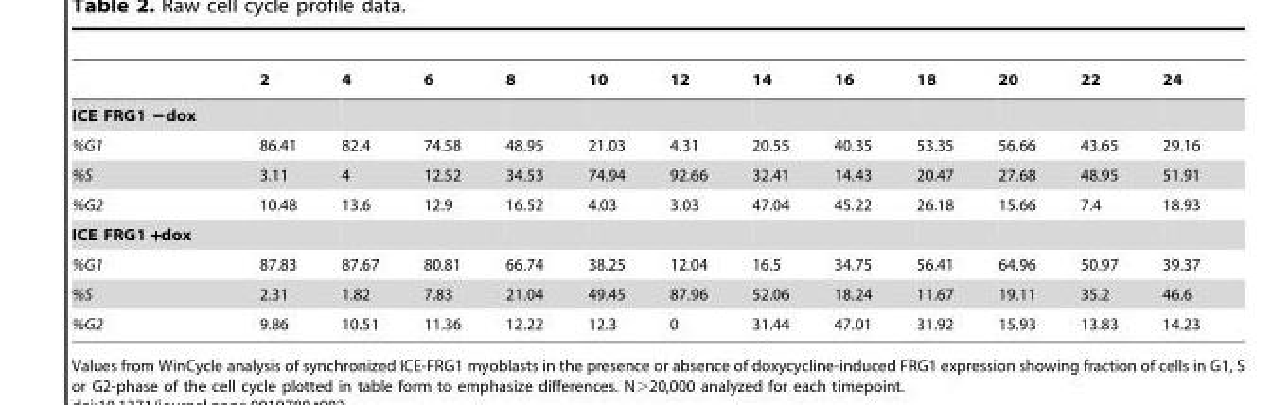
<table><thead><tr><td></td><td>2</td><td>4</td><td>6</td><td>8</td><td>10</td><td>12</td><td>14</td><td>16</td><td>18</td><td>20</td><td>22</td><td>24</td></tr></thead><tbody><tr><td colspan="13">ICE FRG1 −dox</td></tr><tr><td>%G1</td><td>86.41</td><td>82.4</td><td>74.58</td><td>48.95</td><td>21.03</td><td>4.31</td><td>20.55</td><td>40.35</td><td>53.35</td><td>56.66</td><td>43.65</td><td>29.16</td></tr><tr><td>%S</td><td>3.11</td><td>4</td><td>12.52</td><td>34.53</td><td>74.94</td><td>92.66</td><td>32.41</td><td>14.43</td><td>20.47</td><td>27.68</td><td>48.95</td><td>51.91</td></tr><tr><td>%G2</td><td>10.48</td><td>13.6</td><td>12.9</td><td>16.52</td><td>4.03</td><td>3.03</td><td>47.04</td><td>45.22</td><td>26.18</td><td>15.66</td><td>7.4</td><td>18.93</td></tr><tr><td colspan="13">ICE FRG1 +dox</td></tr><tr><td>%G1</td><td>87.83</td><td>87.67</td><td>80.81</td><td>66.74</td><td>38.25</td><td>12.04</td><td>16.5</td><td>34.75</td><td>56.41</td><td>64.96</td><td>50.97</td><td>39.37</td></tr><tr><td>%S</td><td>2.31</td><td>1.82</td><td>7.83</td><td>21.04</td><td>49.45</td><td>87.96</td><td>52.06</td><td>18.24</td><td>11.67</td><td>19.11</td><td>35.2</td><td>46.6</td></tr><tr><td>%G2</td><td>9.86</td><td>10.51</td><td>11.36</td><td>12.22</td><td>12.3</td><td>0</td><td>31.44</td><td>47.01</td><td>31.92</td><td>15.93</td><td>13.83</td><td>14.23</td></tr></tbody></table>